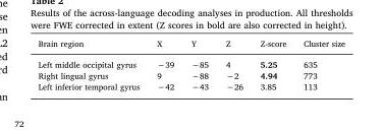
<table><thead><tr><td>Brain region</td><td>X</td><td>Y</td><td>Z</td><td>Z-score</td><td>Cluster size</td></tr></thead><tbody><tr><td>Left middle occipital gyrus</td><td>−39</td><td>−85</td><td>4</td><td>5.25</td><td>635</td></tr><tr><td>Right lingual gyrus</td><td>9</td><td>−88</td><td>−2</td><td>4.94</td><td>773</td></tr><tr><td>Left inferior temporal gyrus</td><td>−42</td><td>−43</td><td>−26</td><td>3.85</td><td>113</td></tr></tbody></table>